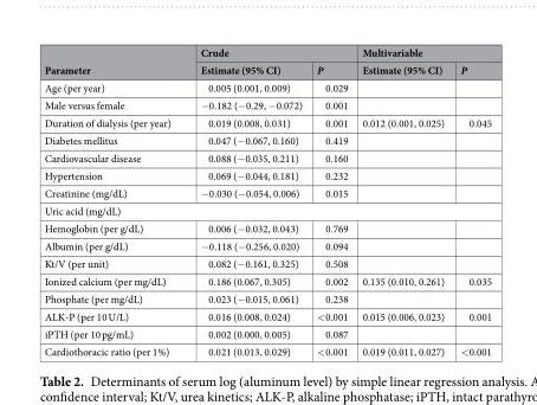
<table><thead><tr><td rowspan="2">Parameter</td><td colspan="2">Crude</td><td colspan="2">Multivariable</td></tr><tr><td>Estimate (95% CI)</td><td>P</td><td>Estimate (95% CI)</td><td>P</td></tr></thead><tbody><tr><td>Age (per year)</td><td>0.005 (0.001, 0.009)</td><td>0.029</td><td></td><td></td></tr><tr><td>Male versus female</td><td>−0.182 (−0.29, −0.072)</td><td>0.001</td><td></td><td></td></tr><tr><td>Duration of dialysis (per year)</td><td>0.019 (0.008, 0.031)</td><td>0.001</td><td>0.012 (0.001, 0.025)</td><td>0.045</td></tr><tr><td>Diabetes mellitus</td><td>0.047 (−0.067, 0.160)</td><td>0.419</td><td></td><td></td></tr><tr><td>Cardiovascular disease</td><td>0.088 (−0.035, 0.211)</td><td>0.160</td><td></td><td></td></tr><tr><td>Hypertension</td><td>0.069 (−0.044, 0.181)</td><td>0.232</td><td></td><td></td></tr><tr><td>Creatinine (mg/dL)</td><td>−0.030 (−0.054, 0.006)</td><td>0.015</td><td></td><td></td></tr><tr><td colspan="5">Uric acid (mg/dL)</td></tr><tr><td>Hemoglobin (per g/dL)</td><td>0.006 (−0.032, 0.043)</td><td>0.769</td><td></td><td></td></tr><tr><td>Albumin (per g/dL)</td><td>−0.118 (−0.256, 0.020)</td><td>0.094</td><td></td><td></td></tr><tr><td>Kt/V (per unit)</td><td>0.082 (−0.161, 0.325)</td><td>0.508</td><td></td><td></td></tr><tr><td>Ionized calcium (per mg/dL)</td><td>0.186 (0.067, 0.305)</td><td>0.002</td><td>0.135 (0.010, 0.261)</td><td>0.035</td></tr><tr><td>Phosphate (per mg/dL)</td><td>0.023 (−0.015, 0.061)</td><td>0.238</td><td></td><td></td></tr><tr><td>ALK-P (per 10 U/L)</td><td>0.016 (0.008, 0.024)</td><td>&lt;0.001</td><td>0.015 (0.006, 0.023)</td><td>0.001</td></tr><tr><td>iPTH (per 10 pg/mL)</td><td>0.002 (0.000, 0.005)</td><td>0.087</td><td></td><td></td></tr><tr><td>Cardiothoracic ratio (per 1%)</td><td>0.021 (0.013, 0.029)</td><td>&lt;0.001</td><td>0.019 (0.011, 0.027)</td><td>&lt;0.001</td></tr></tbody></table>